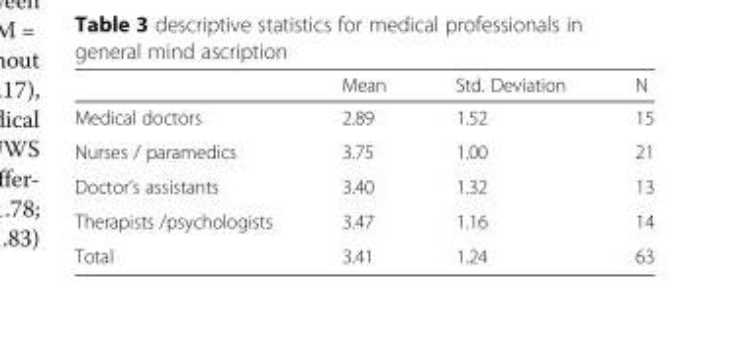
<table><thead><tr><td></td><td>Mean</td><td>Std. Deviation</td><td>N</td></tr></thead><tbody><tr><td>Medical doctors</td><td>2.89</td><td>1.52</td><td>15</td></tr><tr><td>Nurses / paramedics</td><td>3.75</td><td>1.00</td><td>21</td></tr><tr><td>Doctor’s assistants</td><td>3.40</td><td>1.32</td><td>13</td></tr><tr><td>Therapists /psychologists</td><td>3.47</td><td>1.16</td><td>14</td></tr><tr><td>Total</td><td>3.41</td><td>1.24</td><td>63</td></tr></tbody></table>